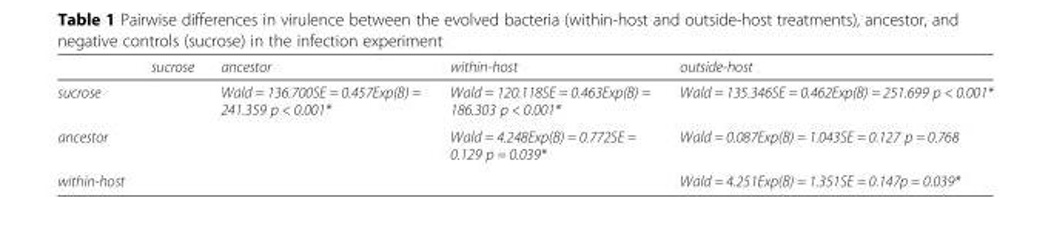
<table><thead><tr><td></td><td>sucrose</td><td>ancestor</td><td>within-host</td><td>outside-host</td></tr></thead><tbody><tr><td>sucrose</td><td></td><td>Wald = 136.700SE = 0.457Exp(B) = 241.359 p &lt; 0.001*</td><td>Wald = 120.118SE = 0.463Exp(B) = 186.303 p &lt; 0.001*</td><td>Wald = 135.346SE = 0.462Exp(B) = 251.699 p &lt; 0.001*</td></tr><tr><td>ancestor</td><td></td><td></td><td>Wald = 4.248Exp(B) = 0.772SE = 0.129 p = 0.039*</td><td>Wald = 0.087Exp(B) = 1.043SE = 0.127 p = 0.768</td></tr><tr><td>within-host</td><td></td><td></td><td></td><td>Wald = 4.251Exp(B) = 1.351SE = 0.147p = 0.039*</td></tr></tbody></table>